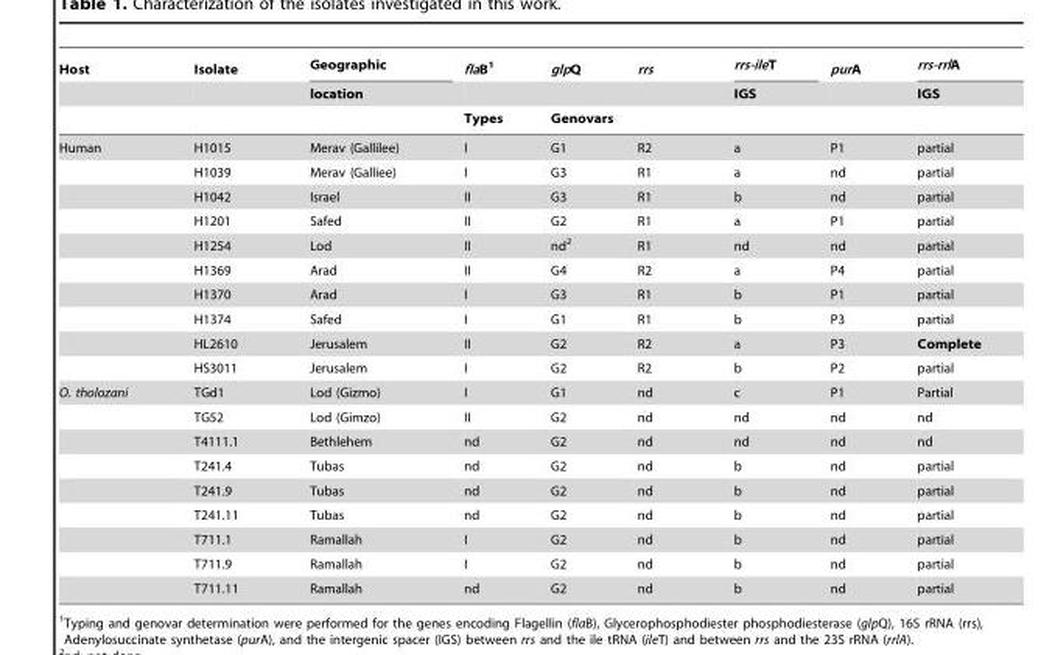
<table><thead><tr><td rowspan="3">Host</td><td rowspan="3">Isolate</td><td rowspan="3">Geographic location</td><td rowspan="3">flaB<sup>1</sup> Types</td><td rowspan="2">glpQ</td><td rowspan="2">rrs</td><td rowspan="2">rrs-ileT IGS</td><td rowspan="2">purA</td><td rowspan="3">rrs-rrlA IGS</td></tr><tr></tr><tr><td colspan="4">Genovars</td></tr></thead><tbody><tr><td rowspan="10">Human</td><td>H1015</td><td>Merav (Gallilee)</td><td>I</td><td>G1</td><td>R2</td><td>a</td><td>P1</td><td>partial</td></tr><tr><td>H1039</td><td>Merav (Galliee)</td><td>I</td><td>G3</td><td>R1</td><td>a</td><td>nd</td><td>partial</td></tr><tr><td>H1042</td><td>Israel</td><td>II</td><td>G3</td><td>R1</td><td>b</td><td>nd</td><td>partial</td></tr><tr><td>H1201</td><td>Safed</td><td>II</td><td>G2</td><td>R1</td><td>a</td><td>P1</td><td>partial</td></tr><tr><td>H1254</td><td>Lod</td><td>II</td><td>nd<sup>2</sup></td><td>R1</td><td>nd</td><td>nd</td><td>partial</td></tr><tr><td>H1369</td><td>Arad</td><td>II</td><td>G4</td><td>R2</td><td>a</td><td>P4</td><td>partial</td></tr><tr><td>H1370</td><td>Arad</td><td>I</td><td>G3</td><td>R1</td><td>b</td><td>P1</td><td>partial</td></tr><tr><td>H1374</td><td>Safed</td><td>I</td><td>G1</td><td>R1</td><td>b</td><td>P3</td><td>partial</td></tr><tr><td>HL2610</td><td>Jerusalem</td><td>II</td><td>G2</td><td>R2</td><td>a</td><td>P3</td><td>Complete</td></tr><tr><td>HS3011</td><td>Jerusalem</td><td>I</td><td>G2</td><td>R2</td><td>b</td><td>P2</td><td>partial</td></tr><tr><td rowspan="9">O. tholozani</td><td>TGd1</td><td>Lod (Gizmo)</td><td>I</td><td>G1</td><td>nd</td><td>c</td><td>P1</td><td>Partial</td></tr><tr><td>TG52</td><td>Lod (Gimzo)</td><td>II</td><td>G2</td><td>nd</td><td>nd</td><td>nd</td><td>nd</td></tr><tr><td>T4111.1</td><td>Bethlehem</td><td>nd</td><td>G2</td><td>nd</td><td>nd</td><td>nd</td><td>nd</td></tr><tr><td>T241.4</td><td>Tubas</td><td>nd</td><td>G2</td><td>nd</td><td>b</td><td>nd</td><td>partial</td></tr><tr><td>T241.9</td><td>Tubas</td><td>nd</td><td>G2</td><td>nd</td><td>b</td><td>nd</td><td>partial</td></tr><tr><td>T241.11</td><td>Tubas</td><td>nd</td><td>G2</td><td>nd</td><td>b</td><td>nd</td><td>partial</td></tr><tr><td>T711.1</td><td>Ramallah</td><td>I</td><td>G2</td><td>nd</td><td>b</td><td>nd</td><td>partial</td></tr><tr><td>T711.9</td><td>Ramallah</td><td>I</td><td>G2</td><td>nd</td><td>b</td><td>nd</td><td>partial</td></tr><tr><td>T711.11</td><td>Ramallah</td><td>nd</td><td>G2</td><td>nd</td><td>b</td><td>nd</td><td>partial</td></tr></tbody></table>